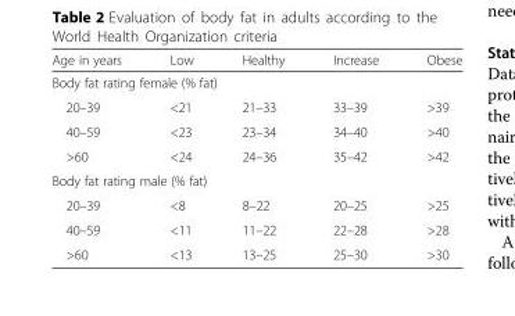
<table><thead><tr><td>Age in years</td><td>Low</td><td>Healthy</td><td>Increase</td><td>Obese</td></tr></thead><tbody><tr><td colspan="5">Body fat rating female (% fat)</td></tr><tr><td>20–39</td><td>&lt;21</td><td>21–33</td><td>33–39</td><td>&gt;39</td></tr><tr><td>40–59</td><td>&lt;23</td><td>23–34</td><td>34–40</td><td>&gt;40</td></tr><tr><td>&gt;60</td><td>&lt;24</td><td>24–36</td><td>35–42</td><td>&gt;42</td></tr><tr><td colspan="5">Body fat rating male (% fat)</td></tr><tr><td>20–39</td><td>&lt;8</td><td>8–22</td><td>20–25</td><td>&gt;25</td></tr><tr><td>40–59</td><td>&lt;11</td><td>11–22</td><td>22–28</td><td>&gt;28</td></tr><tr><td>&gt;60</td><td>&lt;13</td><td>13–25</td><td>25–30</td><td>&gt;30</td></tr></tbody></table>